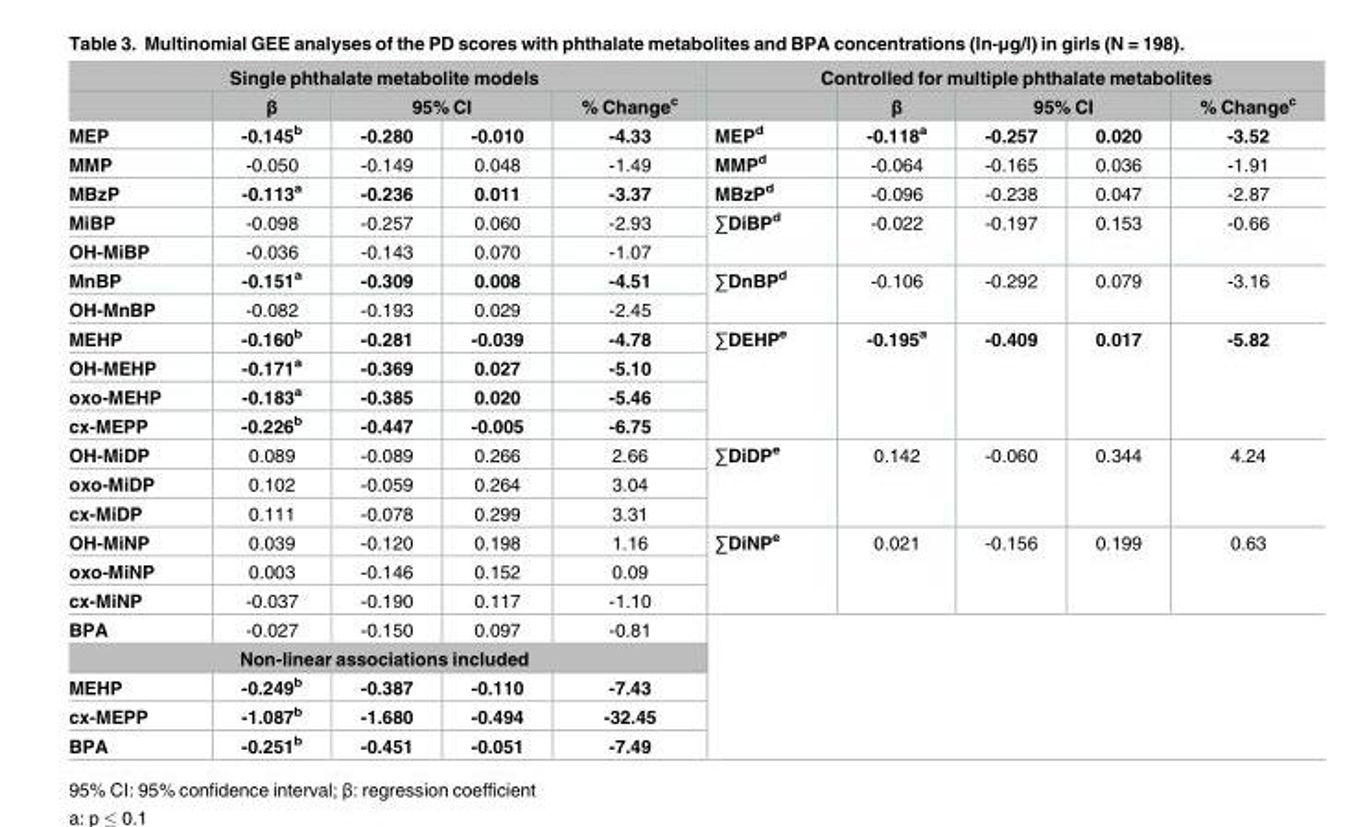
<table><thead><tr><td colspan="5">Single phthalate metabolite models</td><td colspan="5">Controlled for multiple phthalate metabolites</td></tr><tr><td rowspan="2">MEP</td><td rowspan="2">β -0.145<sup>b</sup></td><td colspan="2">95% CI</td><td rowspan="2">% Change<sup>c</sup> -4.33</td><td rowspan="2">MEP<sup>d</sup></td><td rowspan="2">β -0.118<sup>a</sup></td><td colspan="2">95% CI</td><td rowspan="2">% Change<sup>c</sup> -3.52</td></tr><tr><td>-0.280</td><td>-0.010</td><td>-0.257</td><td>0.020</td></tr></thead><tbody><tr><td>MMP</td><td>-0.050</td><td>-0.149</td><td>0.048</td><td>-1.49</td><td>MMP<sup>d</sup></td><td>-0.064</td><td>-0.165</td><td>0.036</td><td>-1.91</td></tr><tr><td>MBzP</td><td>-0.113<sup>a</sup></td><td>-0.236</td><td>0.011</td><td>-3.37</td><td>MBzP<sup>d</sup></td><td>-0.096</td><td>-0.238</td><td>0.047</td><td>-2.87</td></tr><tr><td>MiBP</td><td>-0.098</td><td>-0.257</td><td>0.060</td><td>-2.93</td><td rowspan="2">∑DiBP<sup>d</sup></td><td rowspan="2">-0.022</td><td rowspan="2">-0.197</td><td rowspan="2">0.153</td><td rowspan="2">-0.66</td></tr><tr><td>OH-MiBP</td><td>-0.036</td><td>-0.143</td><td>0.070</td><td>-1.07</td></tr><tr><td>MnBP</td><td>-0.151<sup>a</sup></td><td>-0.309</td><td>0.008</td><td>-4.51</td><td rowspan="2">∑DnBP<sup>d</sup></td><td rowspan="2">-0.106</td><td rowspan="2">-0.292</td><td rowspan="2">0.079</td><td rowspan="2">-3.16</td></tr><tr><td>OH-MnBP</td><td>-0.082</td><td>-0.193</td><td>0.029</td><td>-2.45</td></tr><tr><td>MEHP</td><td>-0.160<sup>b</sup></td><td>-0.281</td><td>-0.039</td><td>-4.78</td><td rowspan="4">∑DEHP<sup>e</sup></td><td rowspan="4">-0.195<sup>a</sup></td><td rowspan="4">-0.409</td><td rowspan="4">0.017</td><td rowspan="4">-5.82</td></tr><tr><td>OH-MEHP</td><td>-0.171<sup>a</sup></td><td>-0.369</td><td>0.027</td><td>-5.10</td></tr><tr><td>oxo-MEHP</td><td>-0.183<sup>a</sup></td><td>-0.385</td><td>0.020</td><td>-5.46</td></tr><tr><td>cx-MEPP</td><td>-0.226<sup>b</sup></td><td>-0.447</td><td>-0.005</td><td>-6.75</td></tr><tr><td>OH-MiDP</td><td>0.089</td><td>-0.089</td><td>0.266</td><td>2.66</td><td rowspan="3">∑DiDP<sup>e</sup></td><td rowspan="3">0.142</td><td rowspan="3">-0.060</td><td rowspan="3">0.344</td><td rowspan="3">4.24</td></tr><tr><td>oxo-MiDP</td><td>0.102</td><td>-0.059</td><td>0.264</td><td>3.04</td></tr><tr><td>cx-MiDP</td><td>0.111</td><td>-0.078</td><td>0.299</td><td>3.31</td></tr><tr><td>OH-MiNP</td><td>0.039</td><td>-0.120</td><td>0.198</td><td>1.16</td><td rowspan="3">∑DiNP<sup>e</sup></td><td rowspan="3">0.021</td><td rowspan="3">-0.156</td><td rowspan="3">0.199</td><td rowspan="3">0.63</td></tr><tr><td>oxo-MiNP</td><td>0.003</td><td>-0.146</td><td>0.152</td><td>0.09</td></tr><tr><td>cx-MiNP</td><td>-0.037</td><td>-0.190</td><td>0.117</td><td>-1.10</td></tr><tr><td>BPA</td><td>-0.027</td><td>-0.150</td><td>0.097</td><td>-0.81</td><td rowspan="5" colspan="5"></td></tr><tr><td colspan="5">Non-linear associations included</td></tr><tr><td>MEHP</td><td>-0.249<sup>b</sup></td><td>-0.387</td><td>-0.110</td><td>-7.43</td></tr><tr><td>cx-MEPP</td><td>-1.087<sup>b</sup></td><td>-1.680</td><td>-0.494</td><td>-32.45</td></tr><tr><td>BPA</td><td>-0.251<sup>b</sup></td><td>-0.451</td><td>-0.051</td><td>-7.49</td></tr></tbody></table>